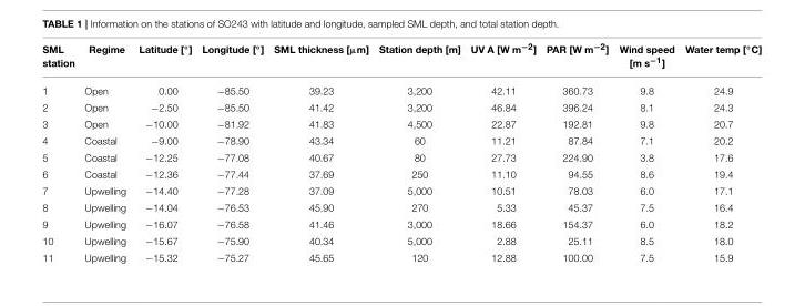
<table><thead><tr><td>SML station</td><td>Regime</td><td>Latitude [◦]</td><td>Longitude [◦]</td><td>SML thickness [µm]</td><td>Station depth [m]</td><td>UV A [W m<sup>−2</sup>]</td><td>PAR [W m<sup>−2</sup>]</td><td>Wind speed [m s<sup>−1</sup>]</td><td>Water temp [◦C]</td></tr></thead><tbody><tr><td>1</td><td>Open</td><td>0.00</td><td>−85.50</td><td>39.23</td><td>3,200</td><td>42.11</td><td>360.73</td><td>9.8</td><td>24.9</td></tr><tr><td>2</td><td>Open</td><td>−2.50</td><td>−85.50</td><td>41.42</td><td>3,200</td><td>46.84</td><td>396.24</td><td>8.1</td><td>24.3</td></tr><tr><td>3</td><td>Open</td><td>−10.00</td><td>−81.92</td><td>41.83</td><td>4,500</td><td>22.87</td><td>192.81</td><td>9.8</td><td>20.7</td></tr><tr><td>4</td><td>Coastal</td><td>−9.00</td><td>−78.90</td><td>43.34</td><td>60</td><td>11.21</td><td>87.84</td><td>7.1</td><td>20.2</td></tr><tr><td>5</td><td>Coastal</td><td>−12.25</td><td>−77.08</td><td>40.67</td><td>80</td><td>27.73</td><td>224.90</td><td>3.8</td><td>17.6</td></tr><tr><td>6</td><td>Coastal</td><td>−12.36</td><td>−77.44</td><td>37.69</td><td>250</td><td>11.10</td><td>94.55</td><td>8.6</td><td>19.4</td></tr><tr><td>7</td><td>Upwelling</td><td>−14.40</td><td>−77.28</td><td>37.09</td><td>5,000</td><td>10.51</td><td>78.03</td><td>6.0</td><td>17.1</td></tr><tr><td>8</td><td>Upwelling</td><td>−14.04</td><td>−76.53</td><td>45.90</td><td>270</td><td>5.33</td><td>45.37</td><td>7.5</td><td>16.4</td></tr><tr><td>9</td><td>Upwelling</td><td>−16.07</td><td>−76.58</td><td>41.46</td><td>3,000</td><td>18.66</td><td>154.37</td><td>6.0</td><td>18.2</td></tr><tr><td>10</td><td>Upwelling</td><td>−15.67</td><td>−75.90</td><td>40.34</td><td>5,000</td><td>2.88</td><td>25.11</td><td>8.5</td><td>18.0</td></tr><tr><td>11</td><td>Upwelling</td><td>−15.32</td><td>−75.27</td><td>45.65</td><td>120</td><td>12.88</td><td>100.00</td><td>7.5</td><td>15.9</td></tr></tbody></table>